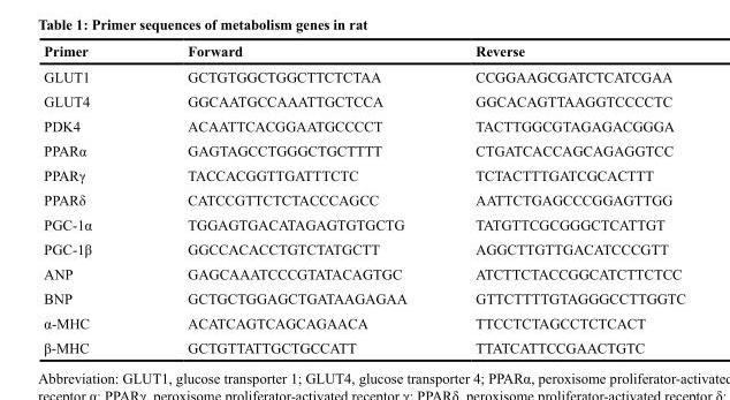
<table><thead><tr><td>Primer</td><td>Forward</td><td>Reverse</td></tr></thead><tbody><tr><td>GLUT1</td><td>GCTGTGGCTGGCTTCTCTAA</td><td>CCGGAAGCGATCTCATCGAA</td></tr><tr><td>GLUT4</td><td>GGCAATGCCAAATTGCTCCA</td><td>GGCACAGTTAAGGTCCCCTC</td></tr><tr><td>PDK4</td><td>ACAATTCACGGAATGCCCCT</td><td>TACTTGGCGTAGAGACGGGA</td></tr><tr><td>PPARα</td><td>GAGTAGCCTGGGCTGCTTTT</td><td>CTGATCACCAGCAGAGGTCC</td></tr><tr><td>PPARγ</td><td>TACCACGGTTGATTTCTC</td><td>TCTACTTTGATCGCACTTT</td></tr><tr><td>PPARδ</td><td>CATCCGTTCTCTACCCAGCC</td><td>AATTCTGAGCCCGGAGTTGG</td></tr><tr><td>PGC-1α</td><td>TGGAGTGACATAGAGTGTGCTG</td><td>TATGTTCGCGGGCTCATTGT</td></tr><tr><td>PGC-1β</td><td>GGCCACACCTGTCTATGCTT</td><td>AGGCTTGTTGACATCCCGTT</td></tr><tr><td>ANP</td><td>GAGCAAATCCCGTATACAGTGC</td><td>ATCTTCTACCGGCATCTTCTCC</td></tr><tr><td>BNP</td><td>GCTGCTGGAGCTGATAAGAGAA</td><td>GTTCTTTTGTAGGGCCTTGGTC</td></tr><tr><td>α-MHC</td><td>ACATCAGTCAGCAGAACA</td><td>TTCCTCTAGCCTCTCACT</td></tr><tr><td>β-MHC</td><td>GCTGTTATTGCTGCCATT</td><td>TTATCATTCCGAACTGTC</td></tr></tbody></table>